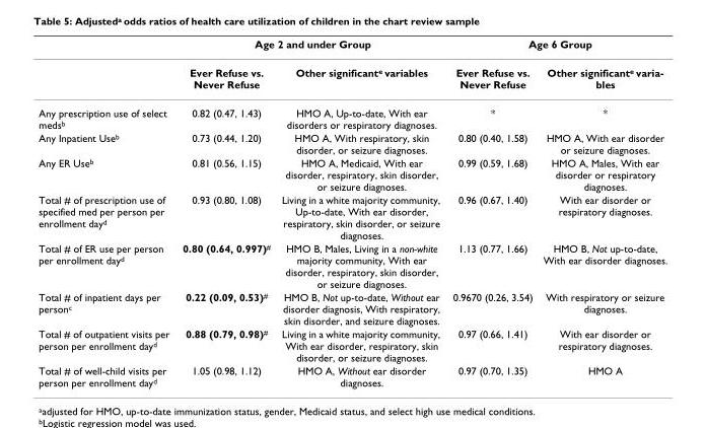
<table><thead><tr><td rowspan="2"></td><td colspan="2">Age 2 and under Group</td><td colspan="2">Age 6 Group</td></tr><tr><td>Ever Refuse vs. Never Refuse</td><td>Other significant<sup>e</sup> variables</td><td>Ever Refuse vs. Never Refuse</td><td>Other significante varia- bles</td></tr></thead><tbody><tr><td>Any prescription use of select meds<sup>b</sup></td><td>0.82 (0.47, 1.43)</td><td>HMO A, Up-to-date, With ear disorders or respiratory diagnoses.</td><td>*</td><td>*</td></tr><tr><td>Any Inpatient Use<sup>b</sup></td><td>0.73 (0.44, 1.20)</td><td>HMO A, With respiratory, skin disorder, or seizure diagnoses.</td><td>0.80 (0.40, 1.58)</td><td>HMO A, With ear disorder or seizure diagnoses.</td></tr><tr><td>Any ER Use<sup>b</sup></td><td>0.81 (0.56, 1.15)</td><td>HMO A, Medicaid, With ear disorder, respiratory, skin disorder, or seizure diagnoses.</td><td>0.99 (0.59, 1.68)</td><td>HMO A, Males, With ear disorder or respiratory diagnoses.</td></tr><tr><td>Total # of prescription use of specified med per person per enrollment day<sup>d</sup></td><td>0.93 (0.80, 1.08)</td><td>Living in a white majority community, Up-to-date, With ear disorder, respiratory, skin disorder, or seizure diagnoses.</td><td>0.96 (0.67, 1.40)</td><td>With ear disorder or respiratory diagnoses.</td></tr><tr><td>Total # of ER use per person per enrollment day<sup>d</sup></td><td>0.80 (0.64, 0.997)<sup>#</sup></td><td>HMO B, Males, Living in a non-white majority community, With ear disorder, respiratory, skin disorder, or seizure diagnoses.</td><td>1.13 (0.77, 1.66)</td><td>HMO B, Not up-to-date, With ear disorder diagnoses.</td></tr><tr><td>Total # of inpatient days per person<sup>c</sup></td><td>0.22 (0.09, 0.53)<sup>#</sup></td><td>HMO B, Not up-to-date, Without ear disorder diagnosis, With respiratory, skin disorder, and seizure diagnoses.</td><td>0.9670 (0.26, 3.54)</td><td>With respiratory or seizure diagnoses.</td></tr><tr><td>Total # of outpatient visits per person per enrollment day<sup>d</sup></td><td>0.88 (0.79, 0.98)<sup>#</sup></td><td>Living in a white majority community, With ear disorder, respiratory, skin disorder, or seizure diagnoses.</td><td>0.97 (0.66, 1.41)</td><td>With ear disorder or respiratory diagnoses.</td></tr><tr><td>Total # of well-child visits per person per enrollment day<sup>d</sup></td><td>1.05 (0.98, 1.12)</td><td>HMO A, Without ear disorder diagnoses.</td><td>0.97 (0.70, 1.35)</td><td>HMO A</td></tr></tbody></table>